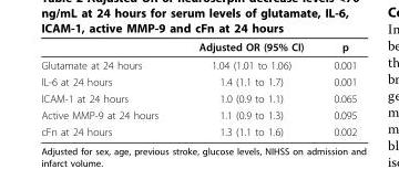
<table><thead><tr><td></td><td>Adjusted OR (95% CI)</td><td>p</td></tr></thead><tbody><tr><td>Glutamate at 24 hours</td><td>1.04 (1.01 to 1.06)</td><td>0.001</td></tr><tr><td>IL-6 at 24 hours</td><td>1.4 (1.1 to 1.7)</td><td>0.001</td></tr><tr><td>ICAM-1 at 24 hours</td><td>1.0 (0.9 to 1.1)</td><td>0.065</td></tr><tr><td>Active MMP-9 at 24 hours</td><td>1.1 (0.9 to 1.3)</td><td>0.095</td></tr><tr><td>cFn at 24 hours</td><td>1.3 (1.1 to 1.6)</td><td>0.002</td></tr></tbody></table>